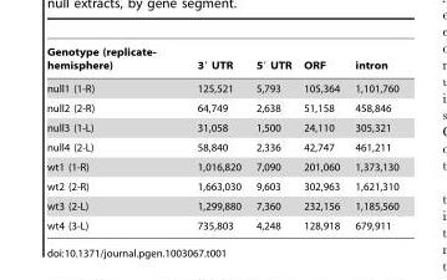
<table><thead><tr><td>Genotype (replicate- hemisphere)</td><td>3′ UTR</td><td>5′ UTR</td><td>ORF</td><td>intron</td></tr></thead><tbody><tr><td>null1 (1-R)</td><td>125,521</td><td>5,793</td><td>105,364</td><td>1,101,760</td></tr><tr><td>null2 (2-R)</td><td>64,749</td><td>2,638</td><td>51,158</td><td>458,846</td></tr><tr><td>null3 (1-L)</td><td>31,058</td><td>1,500</td><td>24,110</td><td>305,321</td></tr><tr><td>null4 (2-L)</td><td>58,840</td><td>2,336</td><td>42,747</td><td>461,211</td></tr><tr><td>wt1 (1-R)</td><td>1,016,820</td><td>7,090</td><td>201,060</td><td>1,373,130</td></tr><tr><td>wt2 (2-R)</td><td>1,663,030</td><td>9,603</td><td>302,963</td><td>1,621,310</td></tr><tr><td>wt3 (2-L)</td><td>1,299,880</td><td>7,360</td><td>232,156</td><td>1,185,560</td></tr><tr><td>wt4 (3-L)</td><td>735,803</td><td>4,248</td><td>128,918</td><td>679,911</td></tr></tbody></table>